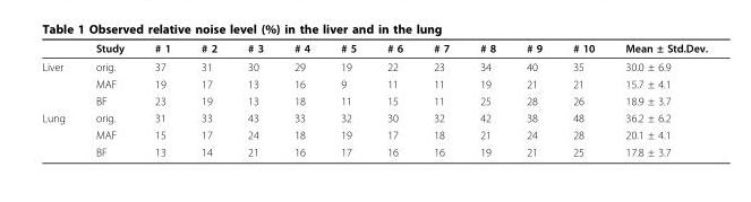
<table><thead><tr><td></td><td>Study</td><td># 1</td><td># 2</td><td># 3</td><td># 4</td><td># 5</td><td># 6</td><td># 7</td><td># 8</td><td># 9</td><td># 10</td><td>Mean ± Std.Dev.</td></tr></thead><tbody><tr><td rowspan="3">Liver</td><td>orig.</td><td>37</td><td>31</td><td>30</td><td>29</td><td>19</td><td>22</td><td>23</td><td>34</td><td>40</td><td>35</td><td>30.0 ± 6.9</td></tr><tr><td>MAF</td><td>19</td><td>17</td><td>13</td><td>16</td><td>9</td><td>11</td><td>11</td><td>19</td><td>21</td><td>21</td><td>15.7 ± 4.1</td></tr><tr><td>BF</td><td>23</td><td>19</td><td>13</td><td>18</td><td>11</td><td>15</td><td>11</td><td>25</td><td>28</td><td>26</td><td>18.9 ± 3.7</td></tr><tr><td rowspan="3">Lung</td><td>orig.</td><td>31</td><td>33</td><td>43</td><td>33</td><td>32</td><td>30</td><td>32</td><td>42</td><td>38</td><td>48</td><td>36.2 ± 6.2</td></tr><tr><td>MAF</td><td>15</td><td>17</td><td>24</td><td>18</td><td>19</td><td>17</td><td>18</td><td>21</td><td>24</td><td>28</td><td>20.1 ± 4.1</td></tr><tr><td>BF</td><td>13</td><td>14</td><td>21</td><td>16</td><td>17</td><td>16</td><td>16</td><td>19</td><td>21</td><td>25</td><td>17.8 ± 3.7</td></tr></tbody></table>